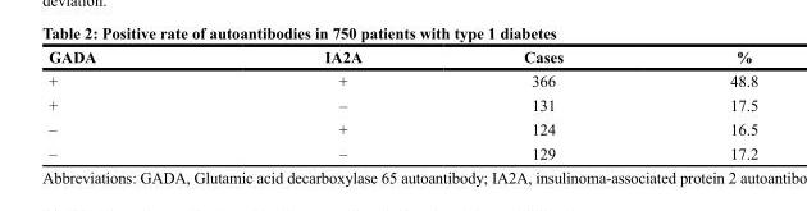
<table><thead><tr><td>GADA</td><td>IA2A</td><td>Cases</td><td>%</td></tr></thead><tbody><tr><td>+</td><td>+</td><td>366</td><td>48.8</td></tr><tr><td>+</td><td>–</td><td>131</td><td>17.5</td></tr><tr><td>–</td><td>+</td><td>124</td><td>16.5</td></tr><tr><td>–</td><td>–</td><td>129</td><td>17.2</td></tr></tbody></table>